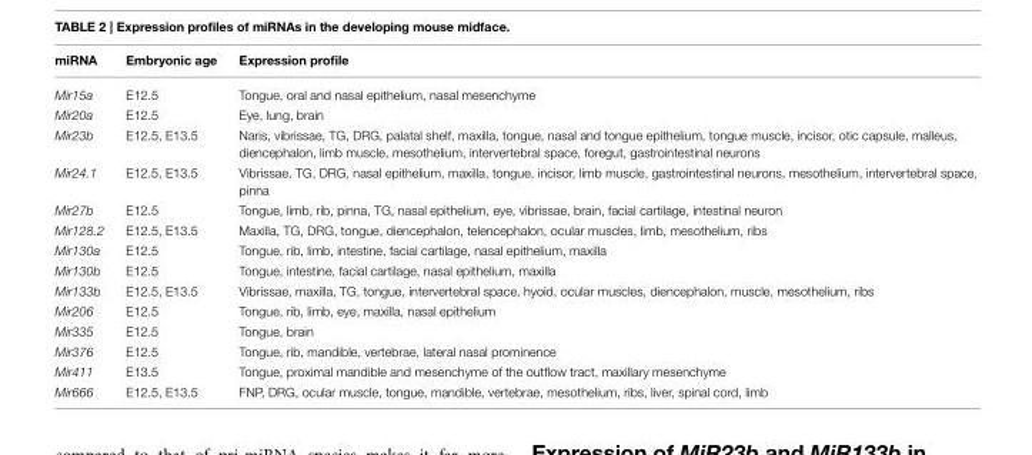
<table><thead><tr><td>miRNA</td><td>Embryonic age</td><td>Expression profile</td></tr></thead><tbody><tr><td>Mir15a</td><td>E12.5</td><td>Tongue, oral and nasal epithelium, nasal mesenchyme</td></tr><tr><td>Mir20a</td><td>E12.5</td><td>Eye, lung, brain</td></tr><tr><td>Mir23b</td><td>E12.5, E13.5</td><td>Naris, vibrissae, TG, DRG, palatal shelf, maxilla, tongue, nasal and tongue epithelium, tongue muscle, incisor, otic capsule, malleus, diencephalon, limb muscle, mesothelium, intervertebral space, foregut, gastrointestinal neurons</td></tr><tr><td>Mir24.1</td><td>E12.5, E13.5</td><td>Vibrissae, TG, DRG, nasal epithelium, maxilla, tongue, incisor, limb muscle, gastrointestinal neurons, mesothelium, intervertebral space, pinna</td></tr><tr><td>Mir27b</td><td>E12.5</td><td>Tongue, limb, rib, pinna, TG, nasal epithelium, eye, vibrissae, brain, facial cartilage, intestinal neuron</td></tr><tr><td>Mir128.2</td><td>E12.5, E13.5</td><td>Maxilla, TG, DRG, tongue, diencephalon, telencephalon, ocular muscles, limb, mesothelium, ribs</td></tr><tr><td>Mir130a</td><td>E12.5</td><td>Tongue, rib, limb, intestine, facial cartilage, nasal epithelium, maxilla</td></tr><tr><td>Mir130b</td><td>E12.5</td><td>Tongue, intestine, facial cartilage, nasal epithelium, maxilla</td></tr><tr><td>Mir133b</td><td>E12.5, E13.5</td><td>Vibrissae, maxilla, TG, tongue, intervertebral space, hyoid, ocular muscles, diencephalon, muscle, mesothelium, ribs</td></tr><tr><td>Mir206</td><td>E12.5</td><td>Tongue, rib, limb, eye, maxilla, nasal epithelium</td></tr><tr><td>Mir335</td><td>E12.5</td><td>Tongue, brain</td></tr><tr><td>Mir376</td><td>E12.5</td><td>Tongue, rib, mandible, vertebrae, lateral nasal prominence</td></tr><tr><td>Mir411</td><td>E13.5</td><td>Tongue, proximal mandible and mesenchyme of the outflow tract, maxillary mesenchyme</td></tr><tr><td>Mir666</td><td>E12.5, E13.5</td><td>FNP, DRG, ocular muscle, tongue, mandible, vertebrae, mesothelium, ribs, liver, spinal cord, limb</td></tr></tbody></table>